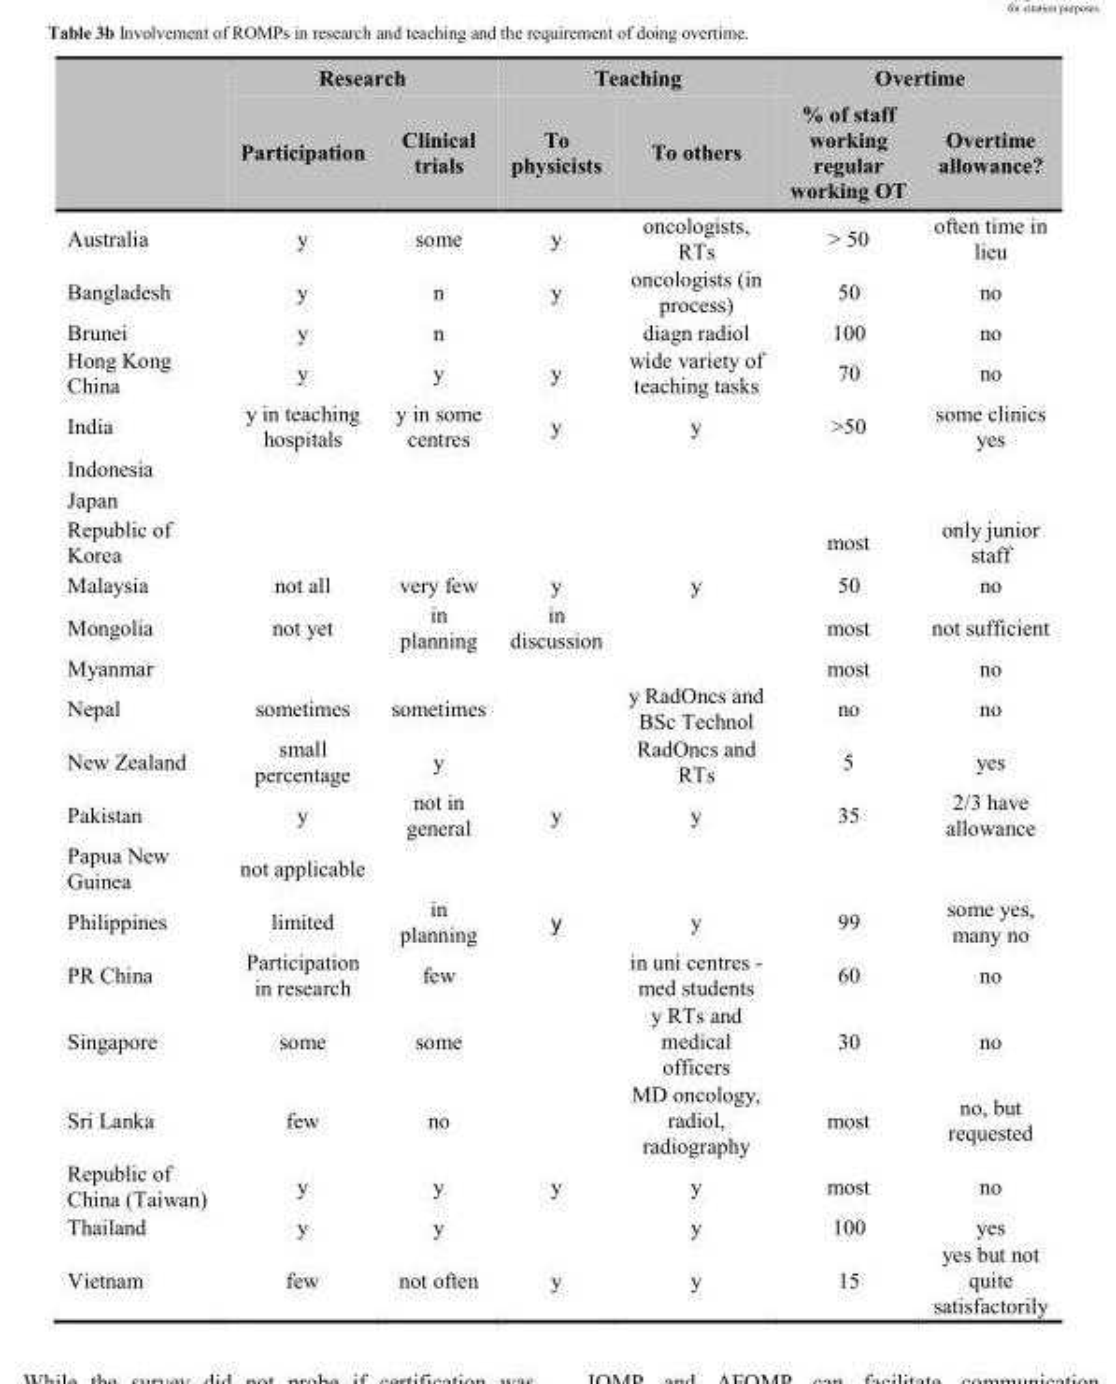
<table><thead><tr><td rowspan="2"></td><td colspan="2">Research</td><td colspan="2">Teaching</td><td colspan="2">Overtime</td></tr><tr><td>Participation</td><td>Clinical trials</td><td>To physicists</td><td>To others</td><td>% of staff working regular working OT</td><td>Overtime allowance?</td></tr></thead><tbody><tr><td>Australia</td><td>y</td><td>some</td><td>y</td><td>oncologists, RTs</td><td>&gt; 50</td><td>often time in lieu</td></tr><tr><td>Bangladesh</td><td>y</td><td>n</td><td>y</td><td>oncologists (in process)</td><td>50</td><td>no</td></tr><tr><td>Brunei</td><td>y</td><td>n</td><td></td><td>diagn radiol</td><td>100</td><td>no</td></tr><tr><td>Hong Kong China</td><td>y</td><td>y</td><td>y</td><td>wide variety of teaching tasks</td><td>70</td><td>no</td></tr><tr><td>India</td><td>y in teaching hospitals</td><td>y in some centres</td><td>y</td><td>y</td><td>&gt;50</td><td>some clinics yes</td></tr><tr><td colspan="7">Indonesia</td></tr><tr><td colspan="7">Japan</td></tr><tr><td>Republic of Korea</td><td></td><td></td><td></td><td></td><td>most</td><td>only junior staff</td></tr><tr><td>Malaysia</td><td>not all</td><td>very few</td><td>y</td><td>y</td><td>50</td><td>no</td></tr><tr><td>Mongolia</td><td>not yet</td><td>in planning</td><td>in discussion</td><td></td><td>most</td><td>not sufficient</td></tr><tr><td>Myanmar</td><td></td><td></td><td></td><td></td><td>most</td><td>no</td></tr><tr><td>Nepal</td><td>sometimes</td><td>sometimes</td><td></td><td>y RadOncs and BSc Technol</td><td>no</td><td>no</td></tr><tr><td>New Zealand</td><td>small percentage</td><td>y</td><td></td><td>RadOncs and RTs</td><td>5</td><td>yes</td></tr><tr><td>Pakistan</td><td>y</td><td>not in general</td><td>y</td><td>y</td><td>35</td><td>2/3 have allowance</td></tr><tr><td>Papua New Guinea</td><td>not applicable</td><td></td><td></td><td></td><td></td><td></td></tr><tr><td>Philippines</td><td>limited</td><td>in planning</td><td>y</td><td>y</td><td>99</td><td>some yes, many no</td></tr><tr><td>PR China</td><td>Participation in research</td><td>few</td><td></td><td>in uni centres - med students</td><td>60</td><td>no</td></tr><tr><td>Singapore</td><td>some</td><td>some</td><td></td><td>y RTs and medical officers</td><td>30</td><td>no</td></tr><tr><td>Sri Lanka</td><td>few</td><td>no</td><td></td><td>MD oncology, radiol, radiography</td><td>most</td><td>no, but requested</td></tr><tr><td>Republic of China (Taiwan)</td><td>y</td><td>y</td><td>y</td><td>y</td><td>most</td><td>no</td></tr><tr><td>Thailand</td><td>y</td><td>y</td><td></td><td>y</td><td>100</td><td>yes</td></tr><tr><td>Vietnam</td><td>few</td><td>not often</td><td>y</td><td>y</td><td>15</td><td>yes but not quite satisfactorily</td></tr></tbody></table>